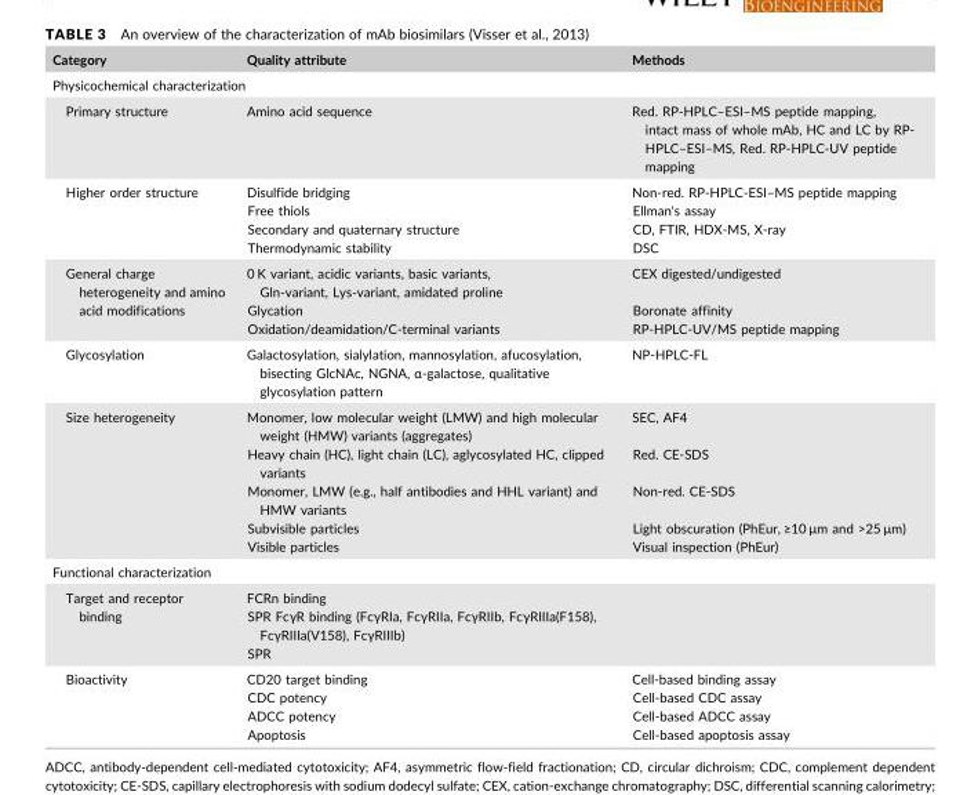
<table><thead><tr><td>Category</td><td>Quality attribute</td><td>Methods</td></tr></thead><tbody><tr><td colspan="3">Physicochemical characterization</td></tr><tr><td>Primary structure</td><td>Amino acid sequence</td><td>Red. RP-HPLC–ESI–MS peptide mapping, intact mass of whole mAb, HC and LC by RP- HPLC–ESI–MS, Red. RP-HPLC-UV peptide mapping</td></tr><tr><td>Higher order structure</td><td>Disulfide bridging Free thiols Secondary and quaternary structure Thermodynamic stability</td><td>Non-red. RP-HPLC-ESI–MS peptide mapping Ellman&#x27;s assay CD, FTIR, HDX-MS, X-ray DSC</td></tr><tr><td>General charge heterogeneity and amino acid modifications</td><td>0 K variant, acidic variants, basic variants, Gln-variant, Lys-variant, amidated proline Glycation Oxidation/deamidation/C-terminal variants</td><td>CEX digested/undigested Boronate affinity RP-HPLC-UV/MS peptide mapping</td></tr><tr><td>Glycosylation</td><td>Galactosylation, sialylation, mannosylation, afucosylation, bisecting GlcNAc, NGNA, α-galactose, qualitative glycosylation pattern</td><td>NP-HPLC-FL</td></tr><tr><td>Size heterogeneity</td><td>Monomer, low molecular weight (LMW) and high molecular weight (HMW) variants (aggregates) Heavy chain (HC), light chain (LC), aglycosylated HC, clipped variants Monomer, LMW (e.g., half antibodies and HHL variant) and HMW variants Subvisible particles Visible particles</td><td>SEC, AF4 Red. CE-SDS Non-red. CE-SDS Light obscuration (PhEur, ≥10 μm and &gt;25 μm) Visual inspection (PhEur)</td></tr><tr><td colspan="3">Functional characterization</td></tr><tr><td>Target and receptor binding</td><td>FCRn binding SPR FcγR binding (FcγRIa, FcγRIIa, FcγRIIb, FcγRIIIa(F158), FcγRIIIa(V158), FcγRIIIb) SPR</td><td></td></tr><tr><td>Bioactivity</td><td>CD20 target binding CDC potency ADCC potency Apoptosis</td><td>Cell-based binding assay Cell-based CDC assay Cell-based ADCC assay Cell-based apoptosis assay</td></tr></tbody></table>